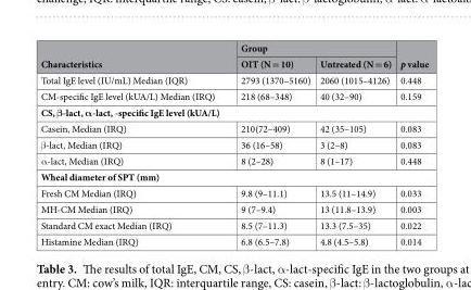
<table><thead><tr><td rowspan="2">Characteristics</td><td colspan="2">Group</td><td rowspan="2">p value</td></tr><tr><td>OIT (N = 10)</td><td>Untreated (N = 6)</td></tr></thead><tbody><tr><td>Total IgE level (IU/mL) Median (IQR)</td><td>2793 (1370–5160)</td><td>2060 (1015–4126)</td><td>0.448</td></tr><tr><td>CM-specific IgE level (kUA/L) Median (IRQ)</td><td>218 (68–348)</td><td>40 (32–90)</td><td>0.159</td></tr><tr><td colspan="4">CS, β-lact, α-lact, -specific IgE level (kUA/L)</td></tr><tr><td>Casein, Median (IRQ)</td><td>210(72–409)</td><td>42 (35–105)</td><td>0.083</td></tr><tr><td>β-lact, Median (IRQ)</td><td>36 (16–58)</td><td>3 (2–8)</td><td>0.083</td></tr><tr><td>α-lact, Median (IRQ)</td><td>8 (2–28)</td><td>8 (1–17)</td><td>0.448</td></tr><tr><td colspan="4">Wheal diameter of SPT (mm)</td></tr><tr><td>Fresh CM Median (IRQ)</td><td>9.8 (9–11.1)</td><td>13.5 (11–14.9)</td><td>0.033</td></tr><tr><td>MH-CM Median (IRQ)</td><td>9 (7–9.4)</td><td>13 (11.8–13.9)</td><td>0.003</td></tr><tr><td>Standard CM exact Median (IRQ)</td><td>8.5 (7–11.3)</td><td>13.3 (7.5–35)</td><td>0.022</td></tr><tr><td>Histamine Median (IRQ)</td><td>6.8 (6.5–7.8)</td><td>4.8 (4.5–5.8)</td><td>0.014</td></tr></tbody></table>